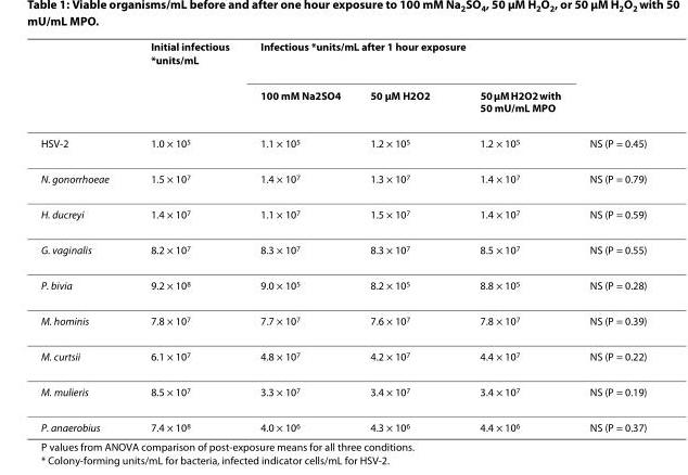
<table><thead><tr><td rowspan="2"></td><td rowspan="2">Initial infectious *units/mL</td><td colspan="3">Infectious *units/mL after 1 hour exposure</td><td rowspan="2"></td></tr><tr><td>100 mM Na<sub>2</sub>SO<sub>4</sub></td><td>50 μM H<sub>2</sub>O<sub>2</sub></td><td>50 μM H<sub>2</sub>O<sub>2</sub> with 50 mU/mL MPO</td></tr></thead><tbody><tr><td>HSV-2</td><td>1.0 × 10<sup>5</sup></td><td>1.1 × 10<sup>5</sup></td><td>1.2 × 10<sup>5</sup></td><td>1.2 × 10<sup>5</sup></td><td>NS (P = 0.45)</td></tr><tr><td>N. gonorrhoeae</td><td>1.5 × 10<sup>7</sup></td><td>1.4 × 10<sup>7</sup></td><td>1.3 × 10<sup>7</sup></td><td>1.4 × 10<sup>7</sup></td><td>NS (P = 0.79)</td></tr><tr><td>H. ducreyi</td><td>1.4 × 10<sup>7</sup></td><td>1.1 × 10<sup>7</sup></td><td>1.5 × 10<sup>7</sup></td><td>1.4 × 10<sup>7</sup></td><td>NS (P = 0.59)</td></tr><tr><td>G. vaginalis</td><td>8.2 × 10<sup>7</sup></td><td>8.3 × 10<sup>7</sup></td><td>8.3 × 10<sup>7</sup></td><td>8.5 × 10<sup>7</sup></td><td>NS (P = 0.55)</td></tr><tr><td>P. bivia</td><td>9.2 × 10<sup>8</sup></td><td>9.0 × 10<sup>5</sup></td><td>8.2 × 10<sup>5</sup></td><td>8.8 × 10<sup>5</sup></td><td>NS (P = 0.28)</td></tr><tr><td>M. hominis</td><td>7.8 × 10<sup>7</sup></td><td>7.7 × 10<sup>7</sup></td><td>7.6 × 10<sup>7</sup></td><td>7.8 × 10<sup>7</sup></td><td>NS (P = 0.39)</td></tr><tr><td>M. curtsii</td><td>6.1 × 10<sup>7</sup></td><td>4.8 × 10<sup>7</sup></td><td>4.2 × 10<sup>7</sup></td><td>4.4 × 10<sup>7</sup></td><td>NS (P = 0.22)</td></tr><tr><td>M. mulieris</td><td>8.5 × 10<sup>7</sup></td><td>3.3 × 10<sup>7</sup></td><td>3.4 × 10<sup>7</sup></td><td>3.4 × 10<sup>7</sup></td><td>NS (P = 0.19)</td></tr><tr><td>P. anaerobius</td><td>7.4 × 10<sup>8</sup></td><td>4.0 × 10<sup>6</sup></td><td>4.3 × 10<sup>6</sup></td><td>4.4 × 10<sup>6</sup></td><td>NS (P = 0.37)</td></tr></tbody></table>